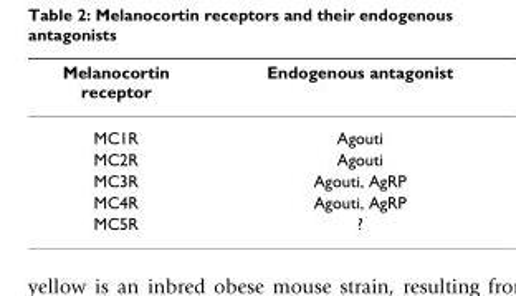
<table><thead><tr><td>Melanocortin receptor</td><td>Endogenous antagonist</td></tr></thead><tbody><tr><td>MC1R</td><td>Agouti</td></tr><tr><td>MC2R</td><td>Agouti</td></tr><tr><td>MC3R</td><td>Agouti, AgRP</td></tr><tr><td>MC4R</td><td>Agouti, AgRP</td></tr><tr><td>MC5R</td><td>?</td></tr></tbody></table>